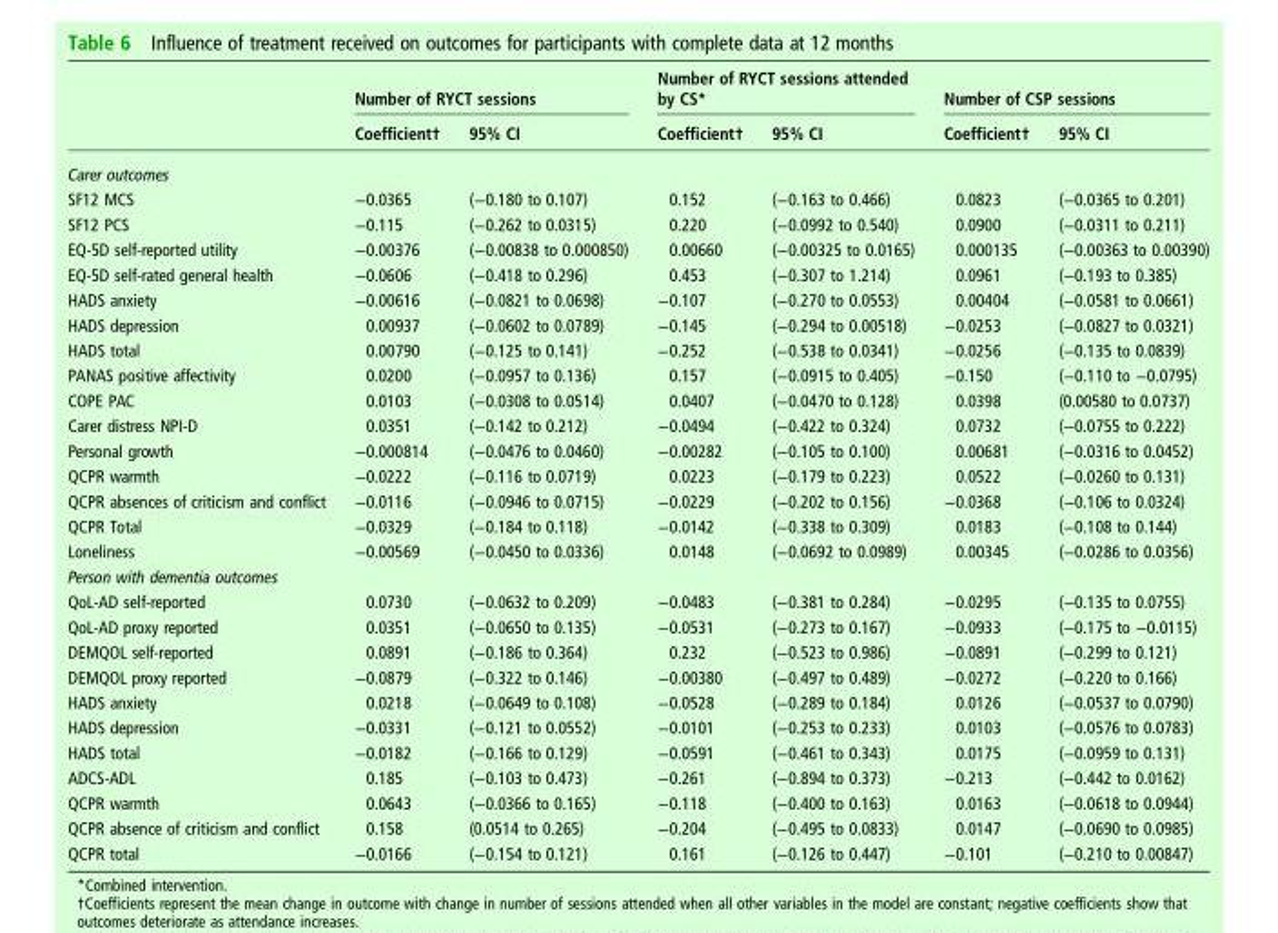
<table><thead><tr><td rowspan="2"></td><td colspan="2">Number of RYCT sessions</td><td colspan="2">Number of RYCT sessions attended by CS*</td><td colspan="2">Number of CSP sessions</td></tr><tr><td>Coefficient†</td><td>95% CI</td><td>Coefficient†</td><td>95% CI</td><td>Coefficient†</td><td>95% CI</td></tr></thead><tbody><tr><td colspan="7">Carer outcomes</td></tr><tr><td>SF12 MCS</td><td>−0.0365</td><td>(−0.180 to 0.107)</td><td>0.152</td><td>(−0.163 to 0.466)</td><td>0.0823</td><td>(−0.0365 to 0.201)</td></tr><tr><td>SF12 PCS</td><td>−0.115</td><td>(−0.262 to 0.0315)</td><td>0.220</td><td>(−0.0992 to 0.540)</td><td>0.0900</td><td>(−0.0311 to 0.211)</td></tr><tr><td>EQ-5D self-reported utility</td><td>−0.00376</td><td>(−0.00838 to 0.000850)</td><td>0.00660</td><td>(−0.00325 to 0.0165)</td><td>0.000135</td><td>(−0.00363 to 0.00390)</td></tr><tr><td>EQ-5D self-rated general health</td><td>−0.0606</td><td>(−0.418 to 0.296)</td><td>0.453</td><td>(−0.307 to 1.214)</td><td>0.0961</td><td>(−0.193 to 0.385)</td></tr><tr><td>HADS anxiety</td><td>−0.00616</td><td>(−0.0821 to 0.0698)</td><td>−0.107</td><td>(−0.270 to 0.0553)</td><td>0.00404</td><td>(−0.0581 to 0.0661)</td></tr><tr><td>HADS depression</td><td>0.00937</td><td>(−0.0602 to 0.0789)</td><td>−0.145</td><td>(−0.294 to 0.00518)</td><td>−0.0253</td><td>(−0.0827 to 0.0321)</td></tr><tr><td>HADS total</td><td>0.00790</td><td>(−0.125 to 0.141)</td><td>−0.252</td><td>(−0.538 to 0.0341)</td><td>−0.0256</td><td>(−0.135 to 0.0839)</td></tr><tr><td>PANAS positive affectivity</td><td>0.0200</td><td>(−0.0957 to 0.136)</td><td>0.157</td><td>(−0.0915 to 0.405)</td><td>−0.150</td><td>(−0.110 to −0.0795)</td></tr><tr><td>COPE PAC</td><td>0.0103</td><td>(−0.0308 to 0.0514)</td><td>0.0407</td><td>(−0.0470 to 0.128)</td><td>0.0398</td><td>(0.00580 to 0.0737)</td></tr><tr><td>Carer distress NPI-D</td><td>0.0351</td><td>(−0.142 to 0.212)</td><td>−0.0494</td><td>(−0.422 to 0.324)</td><td>0.0732</td><td>(−0.0755 to 0.222)</td></tr><tr><td>Personal growth</td><td>−0.000814</td><td>(−0.0476 to 0.0460)</td><td>−0.00282</td><td>(−0.105 to 0.100)</td><td>0.00681</td><td>(−0.0316 to 0.0452)</td></tr><tr><td>QCPR warmth</td><td>−0.0222</td><td>(−0.116 to 0.0719)</td><td>0.0223</td><td>(−0.179 to 0.223)</td><td>0.0522</td><td>(−0.0260 to 0.131)</td></tr><tr><td>QCPR absences of criticism and conflict</td><td>−0.0116</td><td>(−0.0946 to 0.0715)</td><td>−0.0229</td><td>(−0.202 to 0.156)</td><td>−0.0368</td><td>(−0.106 to 0.0324)</td></tr><tr><td>QCPR Total</td><td>−0.0329</td><td>(−0.184 to 0.118)</td><td>−0.0142</td><td>(−0.338 to 0.309)</td><td>0.0183</td><td>(−0.108 to 0.144)</td></tr><tr><td>Loneliness</td><td>−0.00569</td><td>(−0.0450 to 0.0336)</td><td>0.0148</td><td>(−0.0692 to 0.0989)</td><td>0.00345</td><td>(−0.0286 to 0.0356)</td></tr><tr><td colspan="7">Person with dementia outcomes</td></tr><tr><td>QoL-AD self-reported</td><td>0.0730</td><td>(−0.0632 to 0.209)</td><td>−0.0483</td><td>(−0.381 to 0.284)</td><td>−0.0295</td><td>(−0.135 to 0.0755)</td></tr><tr><td>QoL-AD proxy reported</td><td>0.0351</td><td>(−0.0650 to 0.135)</td><td>−0.0531</td><td>(−0.273 to 0.167)</td><td>−0.0933</td><td>(−0.175 to −0.0115)</td></tr><tr><td>DEMQOL self-reported</td><td>0.0891</td><td>(−0.186 to 0.364)</td><td>0.232</td><td>(−0.523 to 0.986)</td><td>−0.0891</td><td>(−0.299 to 0.121)</td></tr><tr><td>DEMQOL proxy reported</td><td>−0.0879</td><td>(−0.322 to 0.146)</td><td>−0.00380</td><td>(−0.497 to 0.489)</td><td>−0.0272</td><td>(−0.220 to 0.166)</td></tr><tr><td>HADS anxiety</td><td>0.0218</td><td>(−0.0649 to 0.108)</td><td>−0.0528</td><td>(−0.289 to 0.184)</td><td>0.0126</td><td>(−0.0537 to 0.0790)</td></tr><tr><td>HADS depression</td><td>−0.0331</td><td>(−0.121 to 0.0552)</td><td>−0.0101</td><td>(−0.253 to 0.233)</td><td>0.0103</td><td>(−0.0576 to 0.0783)</td></tr><tr><td>HADS total</td><td>−0.0182</td><td>(−0.166 to 0.129)</td><td>−0.0591</td><td>(−0.461 to 0.343)</td><td>0.0175</td><td>(−0.0959 to 0.131)</td></tr><tr><td>ADCS-ADL</td><td>0.185</td><td>(−0.103 to 0.473)</td><td>−0.261</td><td>(−0.894 to 0.373)</td><td>−0.213</td><td>(−0.442 to 0.0162)</td></tr><tr><td>QCPR warmth</td><td>0.0643</td><td>(−0.0366 to 0.165)</td><td>−0.118</td><td>(−0.400 to 0.163)</td><td>0.0163</td><td>(−0.0618 to 0.0944)</td></tr><tr><td>QCPR absence of criticism and conflict</td><td>0.158</td><td>(0.0514 to 0.265)</td><td>−0.204</td><td>(−0.495 to 0.0833)</td><td>0.0147</td><td>(−0.0690 to 0.0985)</td></tr><tr><td>QCPR total</td><td>−0.0166</td><td>(−0.154 to 0.121)</td><td>0.161</td><td>(−0.126 to 0.447)</td><td>−0.101</td><td>(−0.210 to 0.00847)</td></tr></tbody></table>